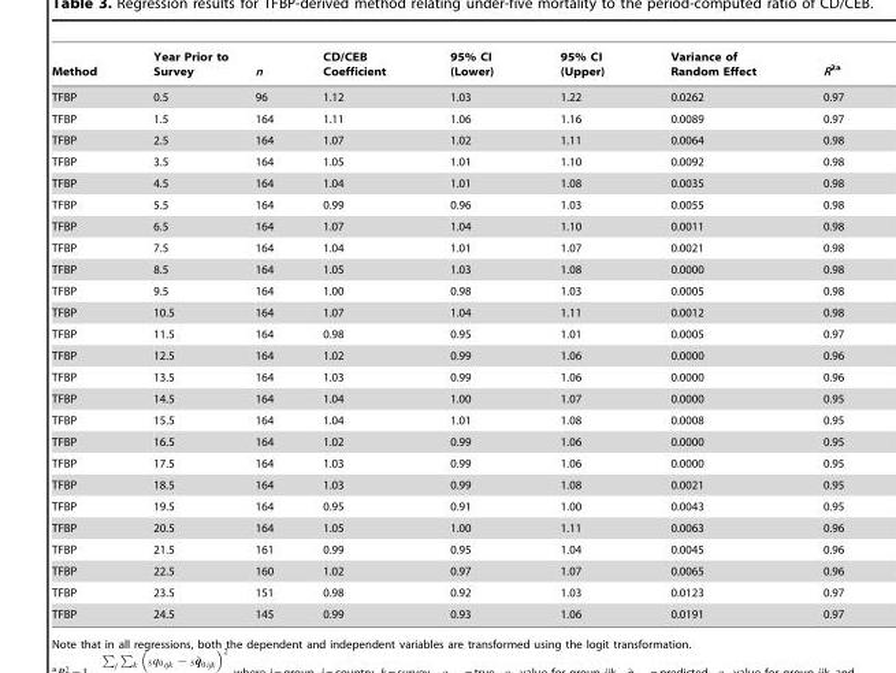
<table><thead><tr><td>Method</td><td>Year Prior to Survey</td><td>n</td><td>CD/CEB Coefficient</td><td>95% CI (Lower)</td><td>95% CI (Upper)</td><td>Variance of Random Effect</td><td>R<sup>2a</sup></td></tr></thead><tbody><tr><td>TFBP</td><td>0.5</td><td>96</td><td>1.12</td><td>1.03</td><td>1.22</td><td>0.0262</td><td>0.97</td></tr><tr><td>TFBP</td><td>1.5</td><td>164</td><td>1.11</td><td>1.06</td><td>1.16</td><td>0.0089</td><td>0.97</td></tr><tr><td>TFBP</td><td>2.5</td><td>164</td><td>1.07</td><td>1.02</td><td>1.11</td><td>0.0064</td><td>0.98</td></tr><tr><td>TFBP</td><td>3.5</td><td>164</td><td>1.05</td><td>1.01</td><td>1.10</td><td>0.0092</td><td>0.98</td></tr><tr><td>TFBP</td><td>4.5</td><td>164</td><td>1.04</td><td>1.01</td><td>1.08</td><td>0.0035</td><td>0.98</td></tr><tr><td>TFBP</td><td>5.5</td><td>164</td><td>0.99</td><td>0.96</td><td>1.03</td><td>0.0055</td><td>0.98</td></tr><tr><td>TFBP</td><td>6.5</td><td>164</td><td>1.07</td><td>1.04</td><td>1.10</td><td>0.0011</td><td>0.98</td></tr><tr><td>TFBP</td><td>7.5</td><td>164</td><td>1.04</td><td>1.01</td><td>1.07</td><td>0.0021</td><td>0.98</td></tr><tr><td>TFBP</td><td>8.5</td><td>164</td><td>1.05</td><td>1.03</td><td>1.08</td><td>0.0000</td><td>0.98</td></tr><tr><td>TFBP</td><td>9.5</td><td>164</td><td>1.00</td><td>0.98</td><td>1.03</td><td>0.0005</td><td>0.98</td></tr><tr><td>TFBP</td><td>10.5</td><td>164</td><td>1.07</td><td>1.04</td><td>1.11</td><td>0.0012</td><td>0.98</td></tr><tr><td>TFBP</td><td>11.5</td><td>164</td><td>0.98</td><td>0.95</td><td>1.01</td><td>0.0005</td><td>0.97</td></tr><tr><td>TFBP</td><td>12.5</td><td>164</td><td>1.02</td><td>0.99</td><td>1.06</td><td>0.0000</td><td>0.96</td></tr><tr><td>TFBP</td><td>13.5</td><td>164</td><td>1.03</td><td>0.99</td><td>1.06</td><td>0.0000</td><td>0.96</td></tr><tr><td>TFBP</td><td>14.5</td><td>164</td><td>1.04</td><td>1.00</td><td>1.07</td><td>0.0000</td><td>0.95</td></tr><tr><td>TFBP</td><td>15.5</td><td>164</td><td>1.04</td><td>1.01</td><td>1.08</td><td>0.0008</td><td>0.95</td></tr><tr><td>TFBP</td><td>16.5</td><td>164</td><td>1.02</td><td>0.99</td><td>1.06</td><td>0.0000</td><td>0.95</td></tr><tr><td>TFBP</td><td>17.5</td><td>164</td><td>1.03</td><td>0.99</td><td>1.06</td><td>0.0000</td><td>0.95</td></tr><tr><td>TFBP</td><td>18.5</td><td>164</td><td>1.03</td><td>0.99</td><td>1.08</td><td>0.0021</td><td>0.95</td></tr><tr><td>TFBP</td><td>19.5</td><td>164</td><td>0.95</td><td>0.91</td><td>1.00</td><td>0.0043</td><td>0.95</td></tr><tr><td>TFBP</td><td>20.5</td><td>164</td><td>1.05</td><td>1.00</td><td>1.11</td><td>0.0063</td><td>0.96</td></tr><tr><td>TFBP</td><td>21.5</td><td>161</td><td>0.99</td><td>0.95</td><td>1.04</td><td>0.0045</td><td>0.96</td></tr><tr><td>TFBP</td><td>22.5</td><td>160</td><td>1.02</td><td>0.97</td><td>1.07</td><td>0.0065</td><td>0.96</td></tr><tr><td>TFBP</td><td>23.5</td><td>151</td><td>0.98</td><td>0.92</td><td>1.03</td><td>0.0123</td><td>0.97</td></tr><tr><td>TFBP</td><td>24.5</td><td>145</td><td>0.99</td><td>0.93</td><td>1.06</td><td>0.0191</td><td>0.97</td></tr></tbody></table>